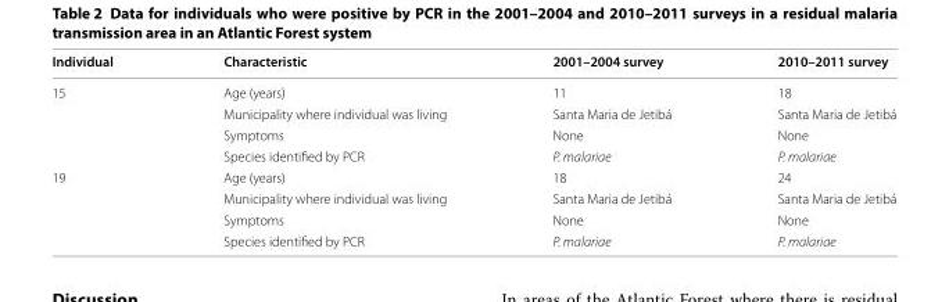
<table><thead><tr><td>Individual</td><td>Characteristic</td><td>2001–2004 survey</td><td>2010–2011 survey</td></tr></thead><tbody><tr><td rowspan="4">15</td><td>Age (years)</td><td>11</td><td>18</td></tr><tr><td>Municipality where individual was living</td><td>Santa Maria de Jetibá</td><td>Santa Maria de Jetibá</td></tr><tr><td>Symptoms</td><td>None</td><td>None</td></tr><tr><td>Species identified by PCR</td><td>P. malariae</td><td>P. malariae</td></tr><tr><td rowspan="4">19</td><td>Age (years)</td><td>18</td><td>24</td></tr><tr><td>Municipality where individual was living</td><td>Santa Maria de Jetibá</td><td>Santa Maria de Jetibá</td></tr><tr><td>Symptoms</td><td>None</td><td>None</td></tr><tr><td>Species identified by PCR</td><td>P. malariae</td><td>P. malariae</td></tr></tbody></table>